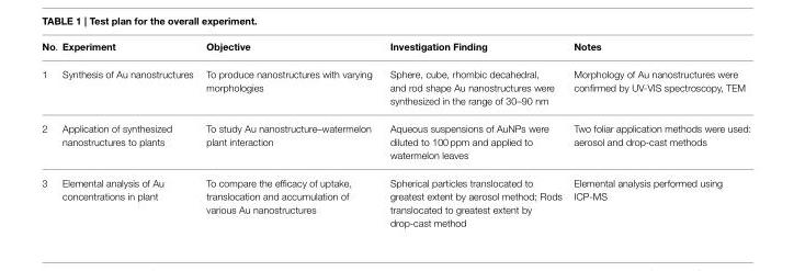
<table><thead><tr><td>No.</td><td>Experiment</td><td>Objective</td><td>Investigation Finding</td><td>Notes</td></tr></thead><tbody><tr><td>1</td><td>Synthesis of Au nanostructures</td><td>To produce nanostructures with varying morphologies</td><td>Sphere, cube, rhombic decahedral, and rod shape Au nanostructures were synthesized in the range of 30–90 nm</td><td>Morphology of Au nanostructures were confirmed by UV-VIS spectroscopy, TEM</td></tr><tr><td>2</td><td>Application of synthesized nanostructures to plants</td><td>To study Au nanostructure–watermelon plant interaction</td><td>Aqueous suspensions of AuNPs were diluted to 100 ppm and applied to watermelon leaves</td><td>Two foliar application methods were used: aerosol and drop-cast methods</td></tr><tr><td>3</td><td>Elemental analysis of Au concentrations in plant</td><td>To compare the efficacy of uptake, translocation and accumulation of various Au nanostructures</td><td>Spherical particles translocated to greatest extent by aerosol method; Rods translocated to greatest extent by drop-cast method</td><td>Elemental analysis performed using ICP-MS</td></tr></tbody></table>